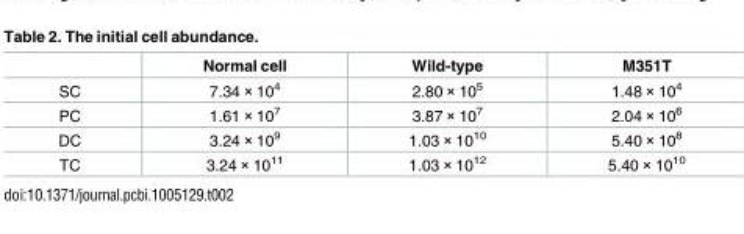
<table><thead><tr><td></td><td>Normal cell</td><td>Wild-type</td><td>M351T</td></tr></thead><tbody><tr><td>SC</td><td>7.34 × 10<sup>4</sup></td><td>2.80 × 10<sup>5</sup></td><td>1.48 × 10<sup>4</sup></td></tr><tr><td>PC</td><td>1.61 × 10<sup>7</sup></td><td>3.87 × 10<sup>7</sup></td><td>2.04 × 10<sup>6</sup></td></tr><tr><td>DC</td><td>3.24 × 10<sup>9</sup></td><td>1.03 × 10<sup>10</sup></td><td>5.40 × 10<sup>8</sup></td></tr><tr><td>TC</td><td>3.24 × 10<sup>11</sup></td><td>1.03 × 10<sup>12</sup></td><td>5.40 × 10<sup>10</sup></td></tr></tbody></table>